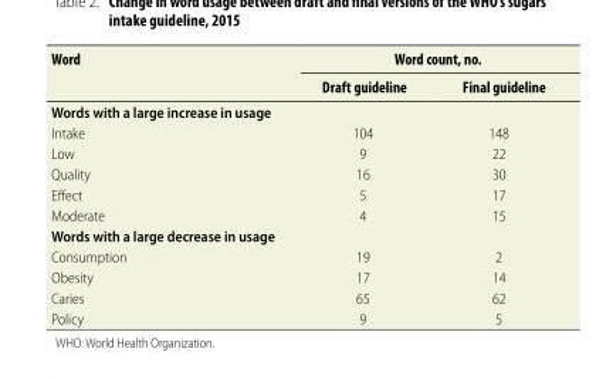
<table><thead><tr><td rowspan="2">Word</td><td colspan="2">Word count, no.</td></tr><tr><td>Draft guideline</td><td>Final guideline</td></tr></thead><tbody><tr><td colspan="3">Words with a large increase in usage</td></tr><tr><td>Intake</td><td>104</td><td>148</td></tr><tr><td>Low</td><td>9</td><td>22</td></tr><tr><td>Quality</td><td>16</td><td>30</td></tr><tr><td>Effect</td><td>5</td><td>17</td></tr><tr><td>Moderate</td><td>4</td><td>15</td></tr><tr><td colspan="3">Words with a large decrease in usage</td></tr><tr><td>Consumption</td><td>19</td><td>2</td></tr><tr><td>Obesity</td><td>17</td><td>14</td></tr><tr><td>Caries</td><td>65</td><td>62</td></tr><tr><td>Policy</td><td>9</td><td>5</td></tr></tbody></table>